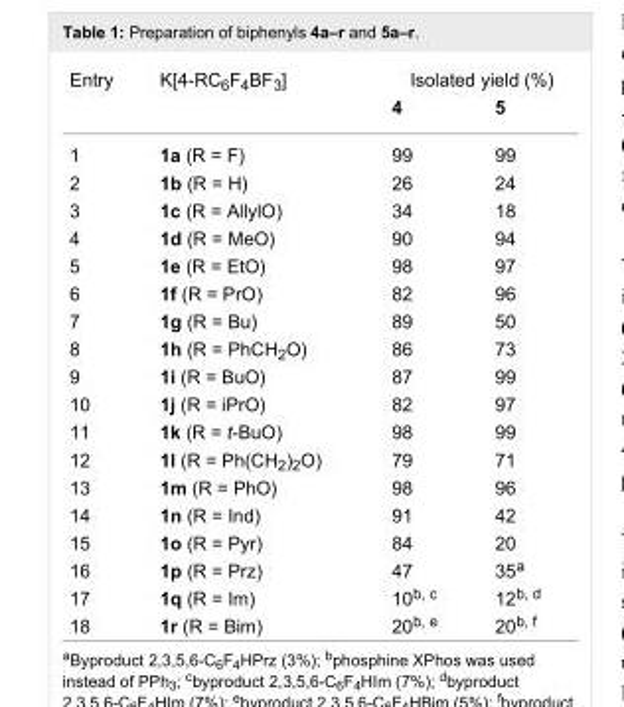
<table><tbody><tr><td rowspan="2">Entry</td><td rowspan="2">K[4-RC<sub>6</sub>F<sub>4</sub>BF<sub>3</sub>]</td><td colspan="2">Isolated yield (%)</td></tr><tr><td>4</td><td>5</td></tr><tr><td>1</td><td>1a (R = F)</td><td>99</td><td>99</td></tr><tr><td>2</td><td>1b (R = H)</td><td>26</td><td>24</td></tr><tr><td>3</td><td>1c (R = AllylO)</td><td>34</td><td>18</td></tr><tr><td>4</td><td>1d (R = MeO)</td><td>90</td><td>94</td></tr><tr><td>5</td><td>1e (R = EtO)</td><td>98</td><td>97</td></tr><tr><td>6</td><td>1f (R = PrO)</td><td>82</td><td>96</td></tr><tr><td>7</td><td>1g (R = Bu)</td><td>89</td><td>50</td></tr><tr><td>8</td><td>1h (R = PhCH<sub>2</sub>O)</td><td>86</td><td>73</td></tr><tr><td>9</td><td>1i (R = BuO)</td><td>87</td><td>99</td></tr><tr><td>10</td><td>1j (R = iPrO)</td><td>82</td><td>97</td></tr><tr><td>11</td><td>1k (R = t-BuO)</td><td>98</td><td>99</td></tr><tr><td>12</td><td>1l (R = Ph(CH<sub>2</sub>)<sub>2</sub>O)</td><td>79</td><td>71</td></tr><tr><td>13</td><td>1m (R = PhO)</td><td>98</td><td>96</td></tr><tr><td>14</td><td>1n (R = Ind)</td><td>91</td><td>42</td></tr><tr><td>15</td><td>1o (R = Pyr)</td><td>84</td><td>20</td></tr><tr><td>16</td><td>1p (R = Prz)</td><td>47</td><td>35<sup>a</sup></td></tr><tr><td>17</td><td>1q (R = Im)</td><td>10<sup>b, c</sup></td><td>12<sup>b, d</sup></td></tr><tr><td>18</td><td>1r (R = Bim)</td><td>20<sup>b, e</sup></td><td>20<sup>b, f</sup></td></tr></tbody></table>